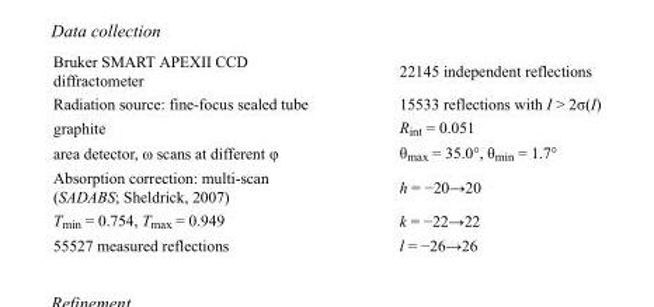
<table><tbody><tr><td>Bruker SMART APEXII CCD diffractometer</td><td>22145 independent reflections</td></tr><tr><td>Radiation source: fine-focus sealed tube</td><td>15533 reflections with I &gt; 2σ(I)</td></tr><tr><td>graphite</td><td>R<sub>int</sub> = 0.051</td></tr><tr><td>area detector, ω scans at different φ</td><td>θ<sub>max</sub> = 35.0°, θ<sub>min</sub> = 1.7°</td></tr><tr><td>Absorption correction: multi-scan (SADABS; Sheldrick, 2007)</td><td>h = −20→20</td></tr><tr><td>T<sub>min</sub> = 0.754, T<sub>max</sub> = 0.949</td><td>k = −22→22</td></tr><tr><td>55527 measured reflections</td><td>l = −26→26</td></tr></tbody></table>